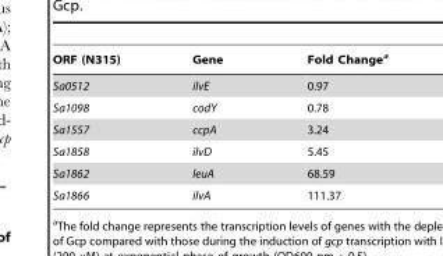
<table><thead><tr><td>ORF (N315)</td><td>Gene</td><td>Fold Change<sup>a</sup></td></tr></thead><tbody><tr><td>Sa0512</td><td>ilvE</td><td>0.97</td></tr><tr><td>Sa1098</td><td>codY</td><td>0.78</td></tr><tr><td>Sa1557</td><td>ccpA</td><td>3.24</td></tr><tr><td>Sa1858</td><td>ilvD</td><td>5.45</td></tr><tr><td>Sa1862</td><td>leuA</td><td>68.59</td></tr><tr><td>Sa1866</td><td>ilvA</td><td>111.37</td></tr></tbody></table>